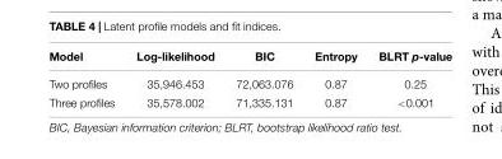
<table><thead><tr><td>Model</td><td>Log-likelihood</td><td>BIC</td><td>Entropy</td><td>BLRT p-value</td></tr></thead><tbody><tr><td>Two profiles</td><td>35,946.453</td><td>72,063.076</td><td>0.87</td><td>0.25</td></tr><tr><td>Three profiles</td><td>35,578.002</td><td>71,335.131</td><td>0.87</td><td>&lt;0.001</td></tr></tbody></table>